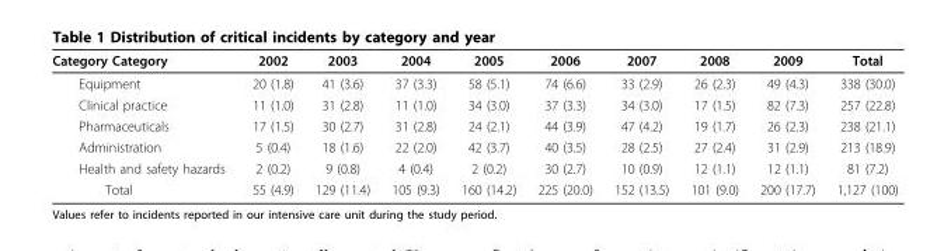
<table><thead><tr><td>Category Category</td><td>2002</td><td>2003</td><td>2004</td><td>2005</td><td>2006</td><td>2007</td><td>2008</td><td>2009</td><td>Total</td></tr></thead><tbody><tr><td>Equipment</td><td>20 (1.8)</td><td>41 (3.6)</td><td>37 (3.3)</td><td>58 (5.1)</td><td>74 (6.6)</td><td>33 (2.9)</td><td>26 (2.3)</td><td>49 (4.3)</td><td>338 (30.0)</td></tr><tr><td>Clinical practice</td><td>11 (1.0)</td><td>31 (2.8)</td><td>11 (1.0)</td><td>34 (3.0)</td><td>37 (3.3)</td><td>34 (3.0)</td><td>17 (1.5)</td><td>82 (7.3)</td><td>257 (22.8)</td></tr><tr><td>Pharmaceuticals</td><td>17 (1.5)</td><td>30 (2.7)</td><td>31 (2.8)</td><td>24 (2.1)</td><td>44 (3.9)</td><td>47 (4.2)</td><td>19 (1.7)</td><td>26 (2.3)</td><td>238 (21.1)</td></tr><tr><td>Administration</td><td>5 (0.4)</td><td>18 (1.6)</td><td>22 (2.0)</td><td>42 (3.7)</td><td>40 (3.5)</td><td>28 (2.5)</td><td>27 (2.4)</td><td>31 (2.9)</td><td>213 (18.9)</td></tr><tr><td>Health and safety hazards</td><td>2 (0.2)</td><td>9 (0.8)</td><td>4 (0.4)</td><td>2 (0.2)</td><td>30 (2.7)</td><td>10 (0.9)</td><td>12 (1.1)</td><td>12 (1.1)</td><td>81 (7.2)</td></tr><tr><td>Total</td><td>55 (4.9)</td><td>129 (11.4)</td><td>105 (9.3)</td><td>160 (14.2)</td><td>225 (20.0)</td><td>152 (13.5)</td><td>101 (9.0)</td><td>200 (17.7)</td><td>1,127 (100)</td></tr></tbody></table>